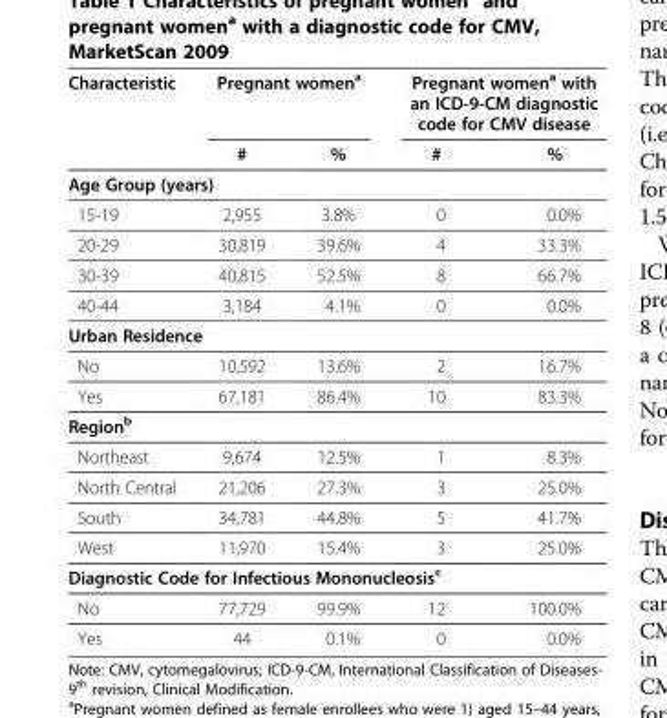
<table><thead><tr><td rowspan="2">Characteristic</td><td colspan="2">Pregnant women<sup>a</sup></td><td colspan="2">Pregnant women<sup>a</sup> with an ICD-9-CM diagnostic code for CMV disease</td></tr><tr><td>#</td><td>%</td><td>#</td><td>%</td></tr></thead><tbody><tr><td colspan="5">Age Group (years)</td></tr><tr><td>15-19</td><td>2,955</td><td>3.8%</td><td>0</td><td>0.0%</td></tr><tr><td>20-29</td><td>30,819</td><td>39.6%</td><td>4</td><td>33.3%</td></tr><tr><td>30-39</td><td>40,815</td><td>52.5%</td><td>8</td><td>66.7%</td></tr><tr><td>40-44</td><td>3,184</td><td>4.1%</td><td>0</td><td>0.0%</td></tr><tr><td colspan="5">Urban Residence</td></tr><tr><td>No</td><td>10,592</td><td>13.6%</td><td>2</td><td>16.7%</td></tr><tr><td>Yes</td><td>67,181</td><td>86.4%</td><td>10</td><td>83.3%</td></tr><tr><td colspan="5">Region<sup>b</sup></td></tr><tr><td>Northeast</td><td>9,674</td><td>12.5%</td><td>1</td><td>8.3%</td></tr><tr><td>North Central</td><td>21,206</td><td>27.3%</td><td>3</td><td>25.0%</td></tr><tr><td>South</td><td>34,781</td><td>44.8%</td><td>5</td><td>41.7%</td></tr><tr><td>West</td><td>11,970</td><td>15.4%</td><td>3</td><td>25.0%</td></tr><tr><td colspan="5">Diagnostic Code for Infectious Mononucleosis<sup>c</sup></td></tr><tr><td>No</td><td>77,729</td><td>99.9%</td><td>12</td><td>100.0%</td></tr><tr><td>Yes</td><td>44</td><td>0.1%</td><td>0</td><td>0.0%</td></tr></tbody></table>